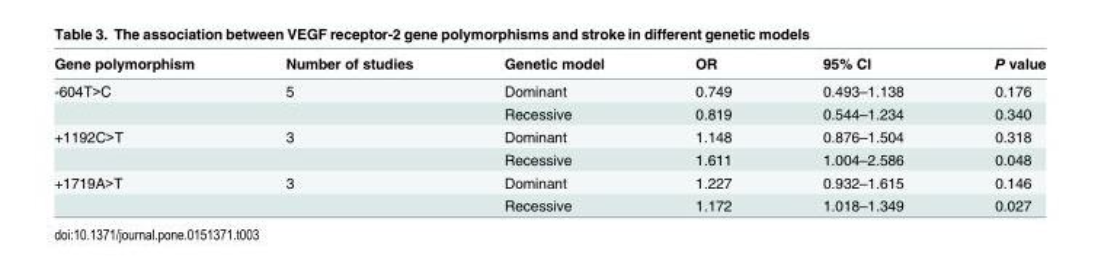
<table><thead><tr><td>Gene polymorphism</td><td>Number of studies</td><td>Genetic model</td><td>OR</td><td>95% CI</td><td>P value</td></tr></thead><tbody><tr><td rowspan="2">-604T&gt;C</td><td>5</td><td>Dominant</td><td>0.749</td><td>0.493–1.138</td><td>0.176</td></tr><tr><td></td><td>Recessive</td><td>0.819</td><td>0.544–1.234</td><td>0.340</td></tr><tr><td rowspan="2">+1192C&gt;T</td><td>3</td><td>Dominant</td><td>1.148</td><td>0.876–1.504</td><td>0.318</td></tr><tr><td></td><td>Recessive</td><td>1.611</td><td>1.004–2.586</td><td>0.048</td></tr><tr><td rowspan="2">+1719A&gt;T</td><td>3</td><td>Dominant</td><td>1.227</td><td>0.932–1.615</td><td>0.146</td></tr><tr><td></td><td>Recessive</td><td>1.172</td><td>1.018–1.349</td><td>0.027</td></tr></tbody></table>